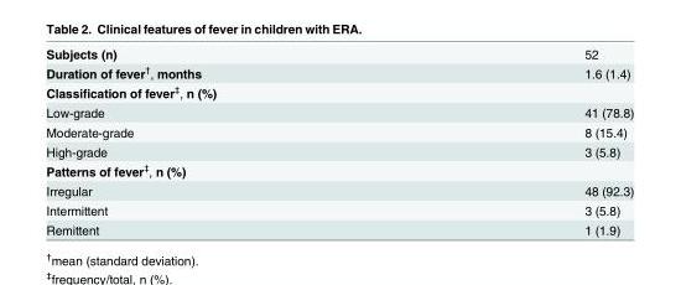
<table><tbody><tr><td>Subjects (n)</td><td>52</td></tr><tr><td>Duration of fever<sup>†</sup>, months</td><td>1.6 (1.4)</td></tr><tr><td colspan="2">Classification of fever<sup>‡</sup>, n (%)</td></tr><tr><td>Low-grade</td><td>41 (78.8)</td></tr><tr><td>Moderate-grade</td><td>8 (15.4)</td></tr><tr><td>High-grade</td><td>3 (5.8)</td></tr><tr><td colspan="2">Patterns of fever<sup>‡</sup>, n (%)</td></tr><tr><td>Irregular</td><td>48 (92.3)</td></tr><tr><td>Intermittent</td><td>3 (5.8)</td></tr><tr><td>Remittent</td><td>1 (1.9)</td></tr></tbody></table>